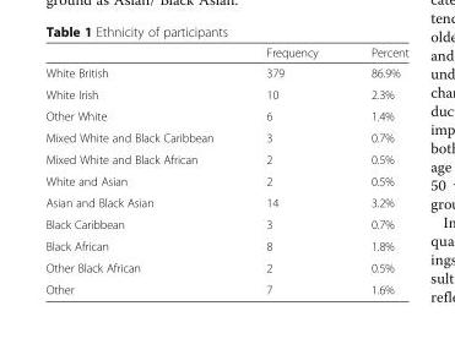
<table><thead><tr><td></td><td>Frequency</td><td>Percent</td></tr></thead><tbody><tr><td>White British</td><td>379</td><td>86.9%</td></tr><tr><td>White Irish</td><td>10</td><td>2.3%</td></tr><tr><td>Other White</td><td>6</td><td>1.4%</td></tr><tr><td>Mixed White and Black Caribbean</td><td>3</td><td>0.7%</td></tr><tr><td>Mixed White and Black African</td><td>2</td><td>0.5%</td></tr><tr><td>White and Asian</td><td>2</td><td>0.5%</td></tr><tr><td>Asian and Black Asian</td><td>14</td><td>3.2%</td></tr><tr><td>Black Caribbean</td><td>3</td><td>0.7%</td></tr><tr><td>Black African</td><td>8</td><td>1.8%</td></tr><tr><td>Other Black African</td><td>2</td><td>0.5%</td></tr><tr><td>Other</td><td>7</td><td>1.6%</td></tr></tbody></table>